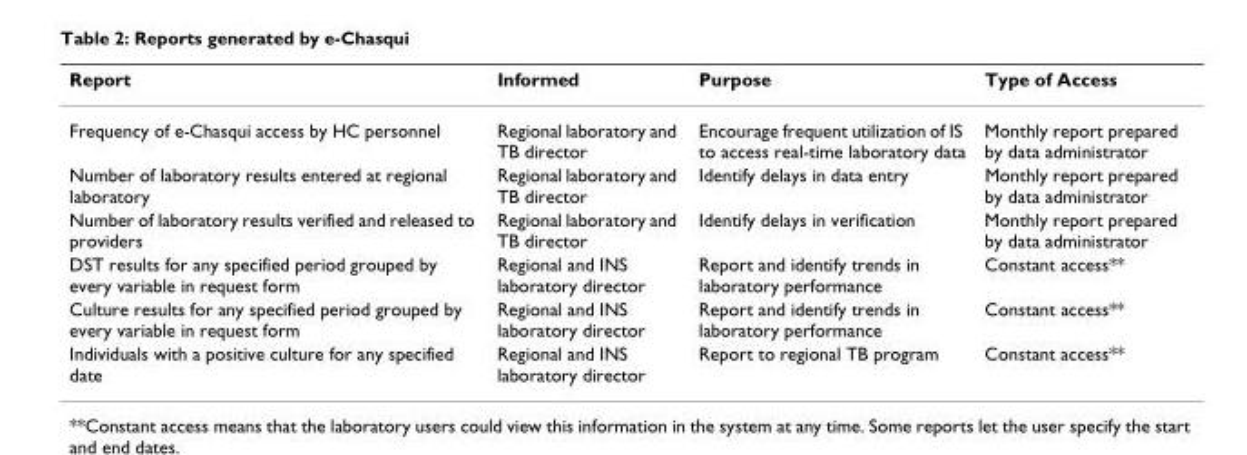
<table><thead><tr><td>Report</td><td>Informed</td><td>Purpose</td><td>Type of Access</td></tr></thead><tbody><tr><td>Frequency of e-Chasqui access by HC personnel</td><td>Regional laboratory and TB director</td><td>Encourage frequent utilization of IS to access real-time laboratory data</td><td>Monthly report prepared by data administrator</td></tr><tr><td>Number of laboratory results entered at regional laboratory</td><td>Regional laboratory and TB director</td><td>Identify delays in data entry</td><td>Monthly report prepared by data administrator</td></tr><tr><td>Number of laboratory results verified and released to providers</td><td>Regional laboratory and TB director</td><td>Identify delays in verification</td><td>Monthly report prepared by data administrator</td></tr><tr><td>DST results for any specified period grouped by every variable in request form</td><td>Regional and INS laboratory director</td><td>Report and identify trends in laboratory performance</td><td>Constant access**</td></tr><tr><td>Culture results for any specified period grouped by every variable in request form</td><td>Regional and INS laboratory director</td><td>Report and identify trends in laboratory performance</td><td>Constant access**</td></tr><tr><td>Individuals with a positive culture for any specified date</td><td>Regional and INS laboratory director</td><td>Report to regional TB program</td><td>Constant access**</td></tr></tbody></table>